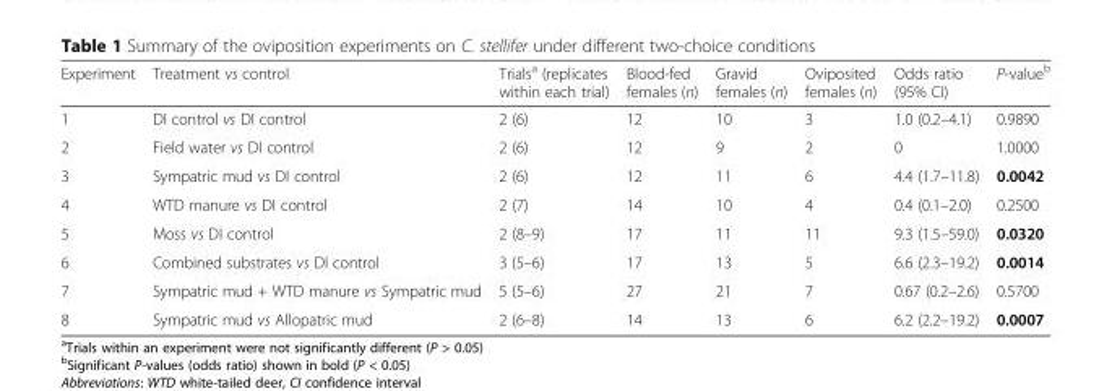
<table><thead><tr><td>Experiment</td><td>Treatment vs control</td><td>Trials<sup>a</sup> (replicates within each trial)</td><td>Blood-fed females (n)</td><td>Gravid females (n)</td><td>Oviposited females (n)</td><td>Odds ratio (95% CI)</td><td>P-value<sup>b</sup></td></tr></thead><tbody><tr><td>1</td><td>DI control vs DI control</td><td>2 (6)</td><td>12</td><td>10</td><td>3</td><td>1.0 (0.2–4.1)</td><td>0.9890</td></tr><tr><td>2</td><td>Field water vs DI control</td><td>2 (6)</td><td>12</td><td>9</td><td>2</td><td>0</td><td>1.0000</td></tr><tr><td>3</td><td>Sympatric mud vs DI control</td><td>2 (6)</td><td>12</td><td>11</td><td>6</td><td>4.4 (1.7–11.8)</td><td>0.0042</td></tr><tr><td>4</td><td>WTD manure vs DI control</td><td>2 (7)</td><td>14</td><td>10</td><td>4</td><td>0.4 (0.1–2.0)</td><td>0.2500</td></tr><tr><td>5</td><td>Moss vs DI control</td><td>2 (8–9)</td><td>17</td><td>11</td><td>11</td><td>9.3 (1.5–59.0)</td><td>0.0320</td></tr><tr><td>6</td><td>Combined substrates vs DI control</td><td>3 (5–6)</td><td>17</td><td>13</td><td>5</td><td>6.6 (2.3–19.2)</td><td>0.0014</td></tr><tr><td>7</td><td>Sympatric mud + WTD manure vs Sympatric mud</td><td>5 (5–6)</td><td>27</td><td>21</td><td>7</td><td>0.67 (0.2–2.6)</td><td>0.5700</td></tr><tr><td>8</td><td>Sympatric mud vs Allopatric mud</td><td>2 (6–8)</td><td>14</td><td>13</td><td>6</td><td>6.2 (2.2–19.2)</td><td>0.0007</td></tr></tbody></table>